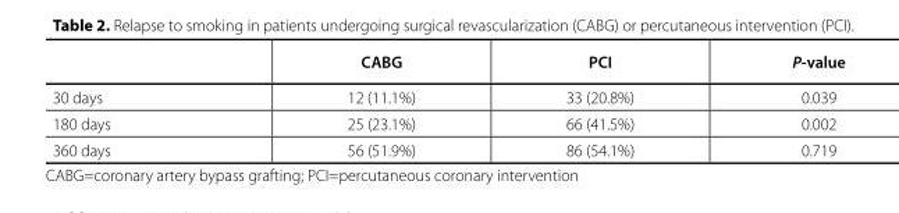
<table><thead><tr><td></td><td>CABG</td><td>PCI</td><td>P-value</td></tr></thead><tbody><tr><td>30 days</td><td>12 (11.1%)</td><td>33 (20.8%)</td><td>0.039</td></tr><tr><td>180 days</td><td>25 (23.1%)</td><td>66 (41.5%)</td><td>0.002</td></tr><tr><td>360 days</td><td>56 (51.9%)</td><td>86 (54.1%)</td><td>0.719</td></tr></tbody></table>